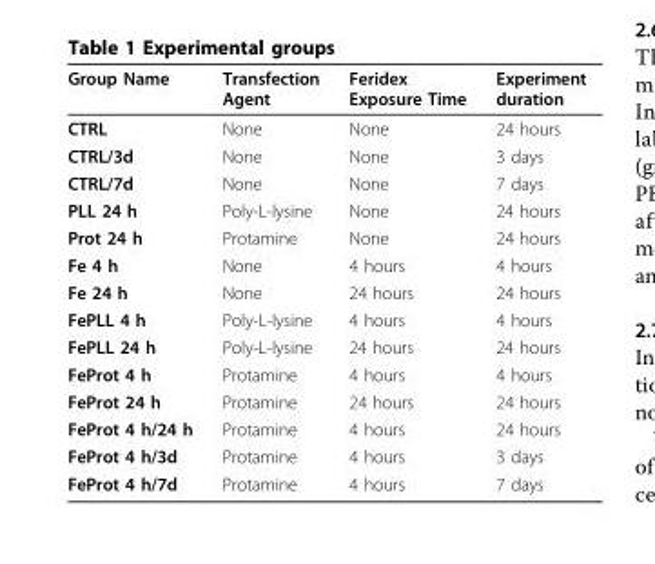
<table><thead><tr><td>Group Name</td><td>Transfection Agent</td><td>Feridex Exposure Time</td><td>Experiment duration</td></tr></thead><tbody><tr><td>CTRL</td><td>None</td><td>None</td><td>24 hours</td></tr><tr><td>CTRL/3d</td><td>None</td><td>None</td><td>3 days</td></tr><tr><td>CTRL/7d</td><td>None</td><td>None</td><td>7 days</td></tr><tr><td>PLL 24 h</td><td>Poly-L-lysine</td><td>None</td><td>24 hours</td></tr><tr><td>Prot 24 h</td><td>Protamine</td><td>None</td><td>24 hours</td></tr><tr><td>Fe 4 h</td><td>None</td><td>4 hours</td><td>4 hours</td></tr><tr><td>Fe 24 h</td><td>None</td><td>24 hours</td><td>24 hours</td></tr><tr><td>FePLL 4 h</td><td>Poly-L-lysine</td><td>4 hours</td><td>4 hours</td></tr><tr><td>FePLL 24 h</td><td>Poly-L-lysine</td><td>24 hours</td><td>24 hours</td></tr><tr><td>FeProt 4 h</td><td>Protamine</td><td>4 hours</td><td>4 hours</td></tr><tr><td>FeProt 24 h</td><td>Protamine</td><td>24 hours</td><td>24 hours</td></tr><tr><td>FeProt 4 h/24 h</td><td>Protamine</td><td>4 hours</td><td>24 hours</td></tr><tr><td>FeProt 4 h/3d</td><td>Protamine</td><td>4 hours</td><td>3 days</td></tr><tr><td>FeProt 4 h/7d</td><td>Protamine</td><td>4 hours</td><td>7 days</td></tr></tbody></table>